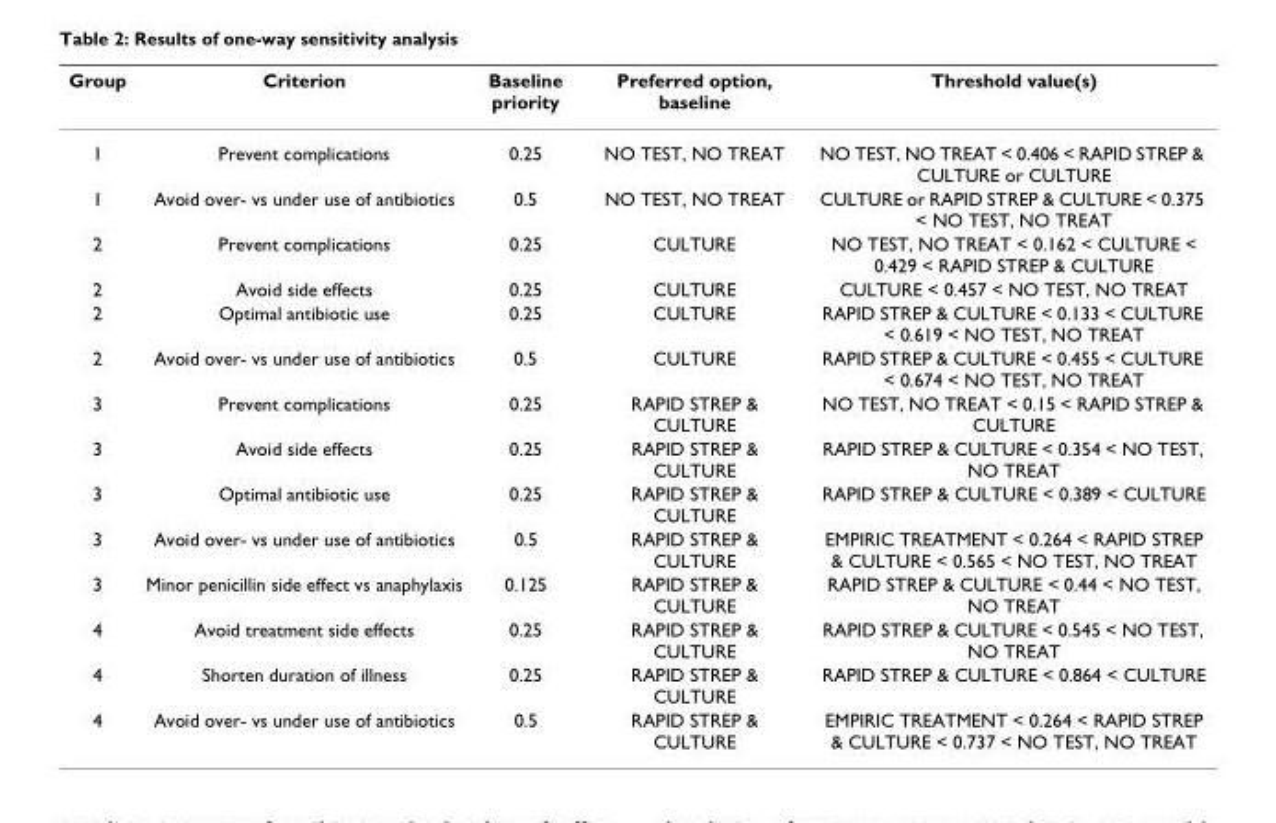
<table><thead><tr><td>Group</td><td>Criterion</td><td>Baseline priority</td><td>Preferred option, baseline</td><td>Threshold value(s)</td></tr></thead><tbody><tr><td>1</td><td>Prevent complications</td><td>0.25</td><td>NO TEST, NO TREAT</td><td>NO TEST, NO TREAT &lt; 0.406 &lt; RAPID STREP &amp; CULTURE or CULTURE</td></tr><tr><td>1</td><td>Avoid over- vs under use of antibiotics</td><td>0.5</td><td>NO TEST, NO TREAT</td><td>CULTURE or RAPID STREP &amp; CULTURE &lt; 0.375 &lt; NO TEST, NO TREAT</td></tr><tr><td>2</td><td>Prevent complications</td><td>0.25</td><td>CULTURE</td><td>NO TEST, NO TREAT &lt; 0.162 &lt; CULTURE &lt; 0.429 &lt; RAPID STREP &amp; CULTURE</td></tr><tr><td>2</td><td>Avoid side effects</td><td>0.25</td><td>CULTURE</td><td>CULTURE &lt; 0.457 &lt; NO TEST, NO TREAT</td></tr><tr><td>2</td><td>Optimal antibiotic use</td><td>0.25</td><td>CULTURE</td><td>RAPID STREP &amp; CULTURE &lt; 0.133 &lt; CULTURE &lt; 0.619 &lt; NO TEST, NO TREAT</td></tr><tr><td>2</td><td>Avoid over- vs under use of antibiotics</td><td>0.5</td><td>CULTURE</td><td>RAPID STREP &amp; CULTURE &lt; 0.455 &lt; CULTURE &lt; 0.674 &lt; NO TEST, NO TREAT</td></tr><tr><td>3</td><td>Prevent complications</td><td>0.25</td><td>RAPID STREP &amp; CULTURE</td><td>NO TEST, NO TREAT &lt; 0.15 &lt; RAPID STREP &amp; CULTURE</td></tr><tr><td>3</td><td>Avoid side effects</td><td>0.25</td><td>RAPID STREP &amp; CULTURE</td><td>RAPID STREP &amp; CULTURE &lt; 0.354 &lt; NO TEST, NO TREAT</td></tr><tr><td>3</td><td>Optimal antibiotic use</td><td>0.25</td><td>RAPID STREP &amp; CULTURE</td><td>RAPID STREP &amp; CULTURE &lt; 0.389 &lt; CULTURE</td></tr><tr><td>3</td><td>Avoid over- vs under use of antibiotics</td><td>0.5</td><td>RAPID STREP &amp; CULTURE</td><td>EMPIRIC TREATMENT &lt; 0.264 &lt; RAPID STREP &amp; CULTURE &lt; 0.565 &lt; NO TEST, NO TREAT</td></tr><tr><td>3</td><td>Minor penicillin side effect vs anaphylaxis</td><td>0.125</td><td>RAPID STREP &amp; CULTURE</td><td>RAPID STREP &amp; CULTURE &lt; 0.44 &lt; NO TEST, NO TREAT</td></tr><tr><td>4</td><td>Avoid treatment side effects</td><td>0.25</td><td>RAPID STREP &amp; CULTURE</td><td>RAPID STREP &amp; CULTURE &lt; 0.545 &lt; NO TEST, NO TREAT</td></tr><tr><td>4</td><td>Shorten duration of illness</td><td>0.25</td><td>RAPID STREP &amp; CULTURE</td><td>RAPID STREP &amp; CULTURE &lt; 0.864 &lt; CULTURE</td></tr><tr><td>4</td><td>Avoid over- vs under use of antibiotics</td><td>0.5</td><td>RAPID STREP &amp; CULTURE</td><td>EMPIRIC TREATMENT &lt; 0.264 &lt; RAPID STREP &amp; CULTURE &lt; 0.737 &lt; NO TEST, NO TREAT</td></tr></tbody></table>